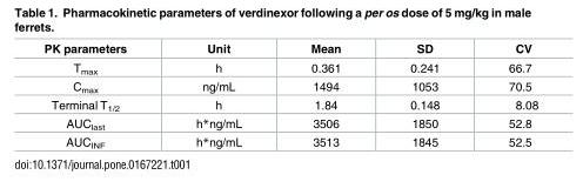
<table><thead><tr><td>PK parameters</td><td>Unit</td><td>Mean</td><td>SD</td><td>CV</td></tr></thead><tbody><tr><td>T<sub>max</sub></td><td>h</td><td>0.361</td><td>0.241</td><td>66.7</td></tr><tr><td>C<sub>max</sub></td><td>ng/mL</td><td>1494</td><td>1053</td><td>70.5</td></tr><tr><td>Terminal T<sub>1/2</sub></td><td>h</td><td>1.84</td><td>0.148</td><td>8.08</td></tr><tr><td>AUC<sub>last</sub></td><td>h*ng/mL</td><td>3506</td><td>1850</td><td>52.8</td></tr><tr><td>AUC<sub>INF</sub></td><td>h*ng/mL</td><td>3513</td><td>1845</td><td>52.5</td></tr></tbody></table>